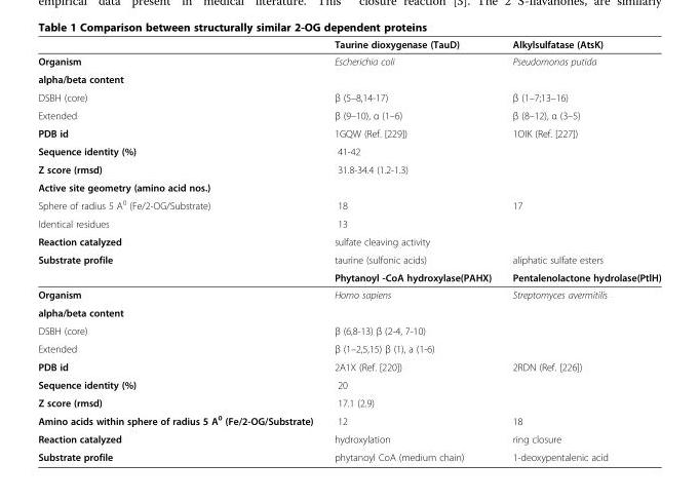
<table><thead><tr><td></td><td>Taurine dioxygenase (TauD)</td><td>Alkylsulfatase (AtsK)</td></tr></thead><tbody><tr><td>Organism</td><td>Escherichia coli</td><td>Pseudomonas putida</td></tr><tr><td colspan="3">alpha/beta content</td></tr><tr><td>DSBH (core)</td><td>β (5–8,14-17)</td><td>β (1–7;13–16)</td></tr><tr><td>Extended</td><td>β (9–10), α (1–6)</td><td>β (8–12), α (3–5)</td></tr><tr><td>PDB id</td><td>1GQW (Ref. [229])</td><td>1OIK (Ref. [227])</td></tr><tr><td>Sequence identity (%)</td><td colspan="2">41-42</td></tr><tr><td>Z score (rmsd)</td><td colspan="2">31.8-34.4 (1.2-1.3)</td></tr><tr><td colspan="3">Active site geometry (amino acid nos.)</td></tr><tr><td>Sphere of radius 5 A<sup>0</sup> (Fe/2-OG/Substrate)</td><td>18</td><td>17</td></tr><tr><td>Identical residues</td><td colspan="2">13</td></tr><tr><td>Reaction catalyzed</td><td colspan="2">sulfate cleaving activity</td></tr><tr><td rowspan="2">Substrate profile</td><td>taurine (sulfonic acids)</td><td>aliphatic sulfate esters</td></tr><tr><td>Phytanoyl -CoA hydroxylase(PAHX)</td><td>Pentalenolactone hydrolase(PtlH)</td></tr><tr><td>Organism</td><td>Homo sapiens</td><td>Streptomyces avermitilis</td></tr><tr><td colspan="3">alpha/beta content</td></tr><tr><td>DSBH (core)</td><td>β (6,8-13) β (2-4, 7-10)</td><td></td></tr><tr><td>Extended</td><td>β (1–2,5,15) β (1), a (1-6)</td><td></td></tr><tr><td>PDB id</td><td>2A1X (Ref. [220])</td><td>2RDN (Ref. [226])</td></tr><tr><td>Sequence identity (%)</td><td colspan="2">20</td></tr><tr><td>Z score (rmsd)</td><td colspan="2">17.1 (2.9)</td></tr><tr><td>Amino acids within sphere of radius 5 A<sup>0</sup> (Fe/2-OG/Substrate)</td><td>12</td><td>18</td></tr><tr><td>Reaction catalyzed</td><td>hydroxylation</td><td>ring closure</td></tr><tr><td>Substrate profile</td><td>phytanoyl CoA (medium chain)</td><td>1-deoxypentalenic acid</td></tr></tbody></table>